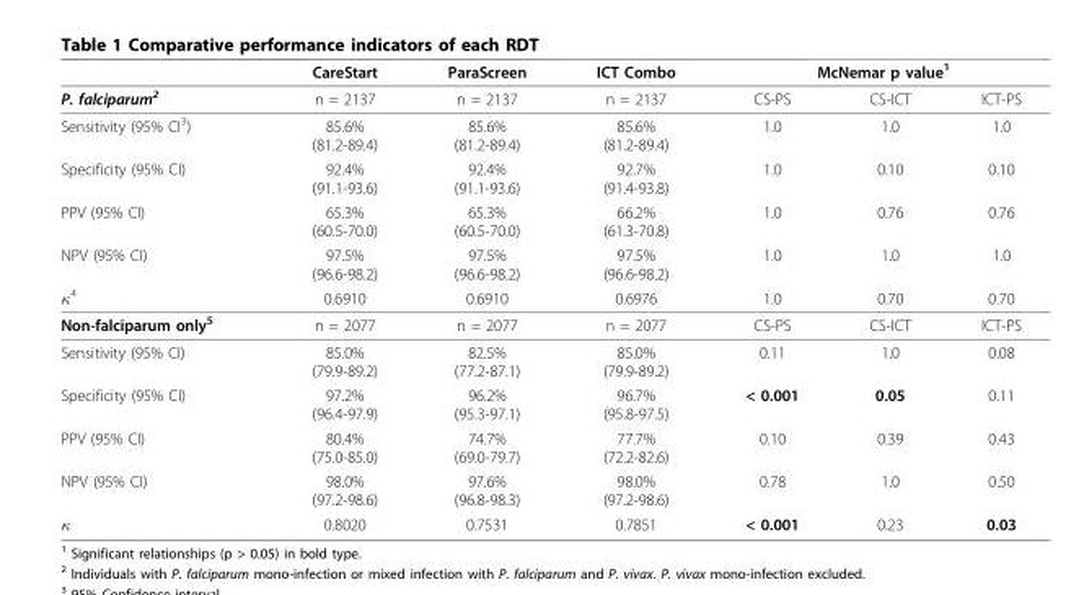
<table><thead><tr><td rowspan="2">P. falciparum2</td><td rowspan="2">CareStart n = 2137</td><td rowspan="2">ParaScreen n = 2137</td><td rowspan="2">ICT Combo n = 2137</td><td colspan="3">McNemar p value1</td></tr><tr><td>CS-PS</td><td>CS-ICT</td><td>ICT-PS</td></tr></thead><tbody><tr><td>Sensitivity (95% CI<sup>3</sup>)</td><td>85.6% (81.2-89.4)</td><td>85.6% (81.2-89.4)</td><td>85.6% (81.2-89.4)</td><td>1.0</td><td>1.0</td><td>1.0</td></tr><tr><td>Specificity (95% CI)</td><td>92.4% (91.1-93.6)</td><td>92.4% (91.1-93.6)</td><td>92.7% (91.4-93.8)</td><td>1.0</td><td>0.10</td><td>0.10</td></tr><tr><td>PPV (95% CI)</td><td>65.3% (60.5-70.0)</td><td>65.3% (60.5-70.0)</td><td>66.2% (61.3-70.8)</td><td>1.0</td><td>0.76</td><td>0.76</td></tr><tr><td>NPV (95% CI)</td><td>97.5% (96.6-98.2)</td><td>97.5% (96.6-98.2)</td><td>97.5% (96.6-98.2)</td><td>1.0</td><td>1.0</td><td>1.0</td></tr><tr><td>κ<sup>4</sup></td><td>0.6910</td><td>0.6910</td><td>0.6976</td><td>1.0</td><td>0.70</td><td>0.70</td></tr><tr><td>Non-falciparum only<sup>5</sup></td><td>n = 2077</td><td>n = 2077</td><td>n = 2077</td><td>CS-PS</td><td>CS-ICT</td><td>ICT-PS</td></tr><tr><td>Sensitivity (95% CI)</td><td>85.0% (79.9-89.2)</td><td>82.5% (77.2-87.1)</td><td>85.0% (79.9-89.2)</td><td>0.11</td><td>1.0</td><td>0.08</td></tr><tr><td>Specificity (95% CI)</td><td>97.2% (96.4-97.9)</td><td>96.2% (95.3-97.1)</td><td>96.7% (95.8-97.5)</td><td>&lt; 0.001</td><td>0.05</td><td>0.11</td></tr><tr><td>PPV (95% CI)</td><td>80.4% (75.0-85.0)</td><td>74.7% (69.0-79.7)</td><td>77.7% (72.2-82.6)</td><td>0.10</td><td>0.39</td><td>0.43</td></tr><tr><td>NPV (95% CI)</td><td>98.0% (97.2-98.6)</td><td>97.6% (96.8-98.3)</td><td>98.0% (97.2-98.6)</td><td>0.78</td><td>1.0</td><td>0.50</td></tr><tr><td>κ</td><td>0.8020</td><td>0.7531</td><td>0.7851</td><td>&lt; 0.001</td><td>0.23</td><td>0.03</td></tr></tbody></table>